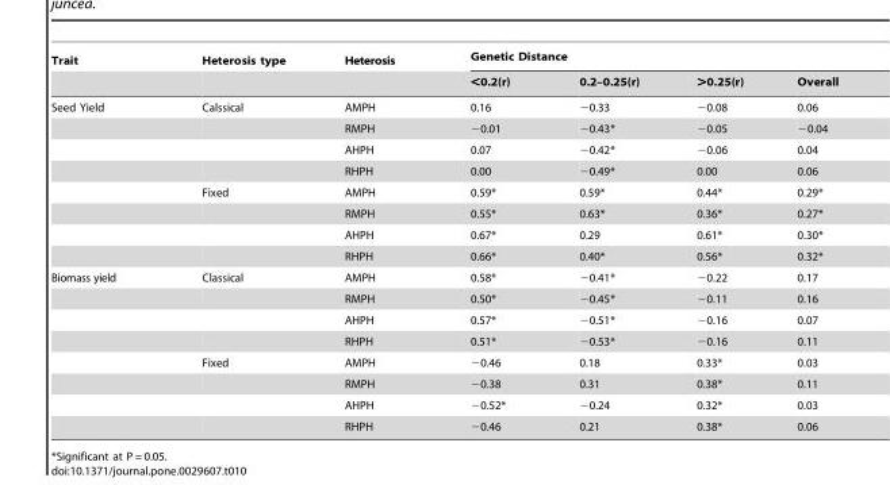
<table><thead><tr><td rowspan="2">Trait</td><td rowspan="2">Heterosis type</td><td rowspan="2">Heterosis</td><td colspan="4">Genetic Distance</td></tr><tr><td>&lt;0.2(r)</td><td>0.2–0.25(r)</td><td>&gt;0.25(r)</td><td>Overall</td></tr></thead><tbody><tr><td rowspan="8">Seed Yield</td><td>Calssical</td><td>AMPH</td><td>0.16</td><td>−0.33</td><td>−0.08</td><td>0.06</td></tr><tr><td></td><td>RMPH</td><td>−0.01</td><td>−0.43*</td><td>−0.05</td><td>−0.04</td></tr><tr><td></td><td>AHPH</td><td>0.07</td><td>−0.42*</td><td>−0.06</td><td>0.04</td></tr><tr><td></td><td>RHPH</td><td>0.00</td><td>−0.49*</td><td>0.00</td><td>0.06</td></tr><tr><td>Fixed</td><td>AMPH</td><td>0.59*</td><td>0.59*</td><td>0.44*</td><td>0.29*</td></tr><tr><td></td><td>RMPH</td><td>0.55*</td><td>0.63*</td><td>0.36*</td><td>0.27*</td></tr><tr><td></td><td>AHPH</td><td>0.67*</td><td>0.29</td><td>0.61*</td><td>0.30*</td></tr><tr><td></td><td>RHPH</td><td>0.66*</td><td>0.40*</td><td>0.56*</td><td>0.32*</td></tr><tr><td rowspan="8">Biomass yield</td><td>Classical</td><td>AMPH</td><td>0.58*</td><td>−0.41*</td><td>−0.22</td><td>0.17</td></tr><tr><td></td><td>RMPH</td><td>0.50*</td><td>−0.45*</td><td>−0.11</td><td>0.16</td></tr><tr><td></td><td>AHPH</td><td>0.57*</td><td>−0.51*</td><td>−0.16</td><td>0.07</td></tr><tr><td></td><td>RHPH</td><td>0.51*</td><td>−0.53*</td><td>−0.16</td><td>0.11</td></tr><tr><td>Fixed</td><td>AMPH</td><td>−0.46</td><td>0.18</td><td>0.33*</td><td>0.03</td></tr><tr><td></td><td>RMPH</td><td>−0.38</td><td>0.31</td><td>0.38*</td><td>0.11</td></tr><tr><td></td><td>AHPH</td><td>−0.52*</td><td>−0.24</td><td>0.32*</td><td>0.03</td></tr><tr><td></td><td>RHPH</td><td>−0.46</td><td>0.21</td><td>0.38*</td><td>0.06</td></tr></tbody></table>